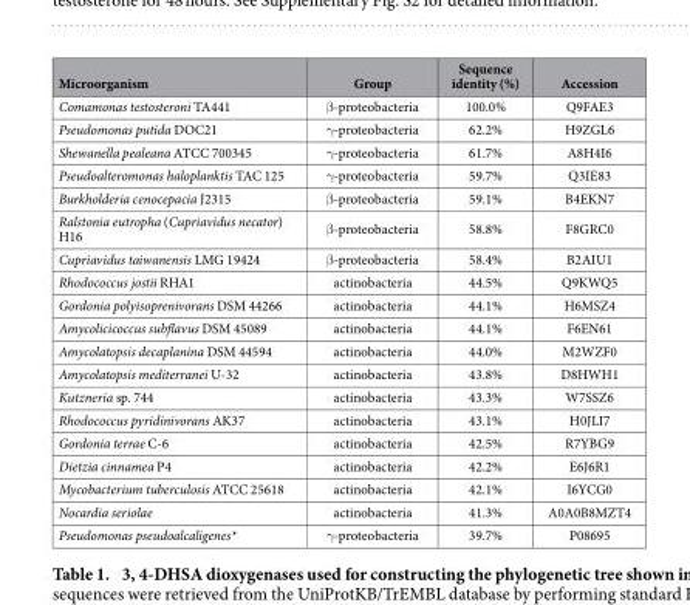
<table><thead><tr><td>Microorganism</td><td>Group</td><td>Sequence identity (%)</td><td>Accession</td></tr></thead><tbody><tr><td>Comamonas testosteroni TA441</td><td>β -proteobacteria</td><td>100.0%</td><td>Q9FAE3</td></tr><tr><td>Pseudomonas putida DOC21</td><td>γ -proteobacteria</td><td>62.2%</td><td>H9ZGL6</td></tr><tr><td>Shewanella pealeana ATCC 700345</td><td>γ -proteobacteria</td><td>61.7%</td><td>A8H4I6</td></tr><tr><td>Pseudoalteromonas haloplanktis TAC 125</td><td>γ -proteobacteria</td><td>59.7%</td><td>Q3IE83</td></tr><tr><td>Burkholderia cenocepacia J2315</td><td>β -proteobacteria</td><td>59.1%</td><td>B4EKN7</td></tr><tr><td>Ralstonia eutropha (Cupriavidus necator) H16</td><td>β -proteobacteria</td><td>58.8%</td><td>F8GRC0</td></tr><tr><td>Cupriavidus taiwanensis LMG 19424</td><td>β -proteobacteria</td><td>58.4%</td><td>B2AIU1</td></tr><tr><td>Rhodococcus jostii RHA1</td><td>actinobacteria</td><td>44.5%</td><td>Q9KWQ5</td></tr><tr><td>Gordonia polyisoprenivorans DSM 44266</td><td>actinobacteria</td><td>44.1%</td><td>H6MSZ4</td></tr><tr><td>Amycolicicoccus subflavus DSM 45089</td><td>actinobacteria</td><td>44.1%</td><td>F6EN61</td></tr><tr><td>Amycolatopsis decaplanina DSM 44594</td><td>actinobacteria</td><td>44.0%</td><td>M2WZF0</td></tr><tr><td>Amycolatopsis mediterranei U-32</td><td>actinobacteria</td><td>43.8%</td><td>D8HWH1</td></tr><tr><td>Kutzneria sp. 744</td><td>actinobacteria</td><td>43.3%</td><td>W7SSZ6</td></tr><tr><td>Rhodococcus pyridinivorans AK37</td><td>actinobacteria</td><td>43.1%</td><td>H0JLI7</td></tr><tr><td>Gordonia terrae C-6</td><td>actinobacteria</td><td>42.5%</td><td>R7YBG9</td></tr><tr><td>Dietzia cinnamea P4</td><td>actinobacteria</td><td>42.2%</td><td>E6J6R1</td></tr><tr><td>Mycobacterium tuberculosis ATCC 25618</td><td>actinobacteria</td><td>42.1%</td><td>I6YCG0</td></tr><tr><td>Nocardia seriolae</td><td>actinobacteria</td><td>41.3%</td><td>A0A0B8MZT4</td></tr><tr><td>Pseudomonas pseudoalcaligenes*</td><td>γ -proteobacteria</td><td>39.7%</td><td>P08695</td></tr></tbody></table>